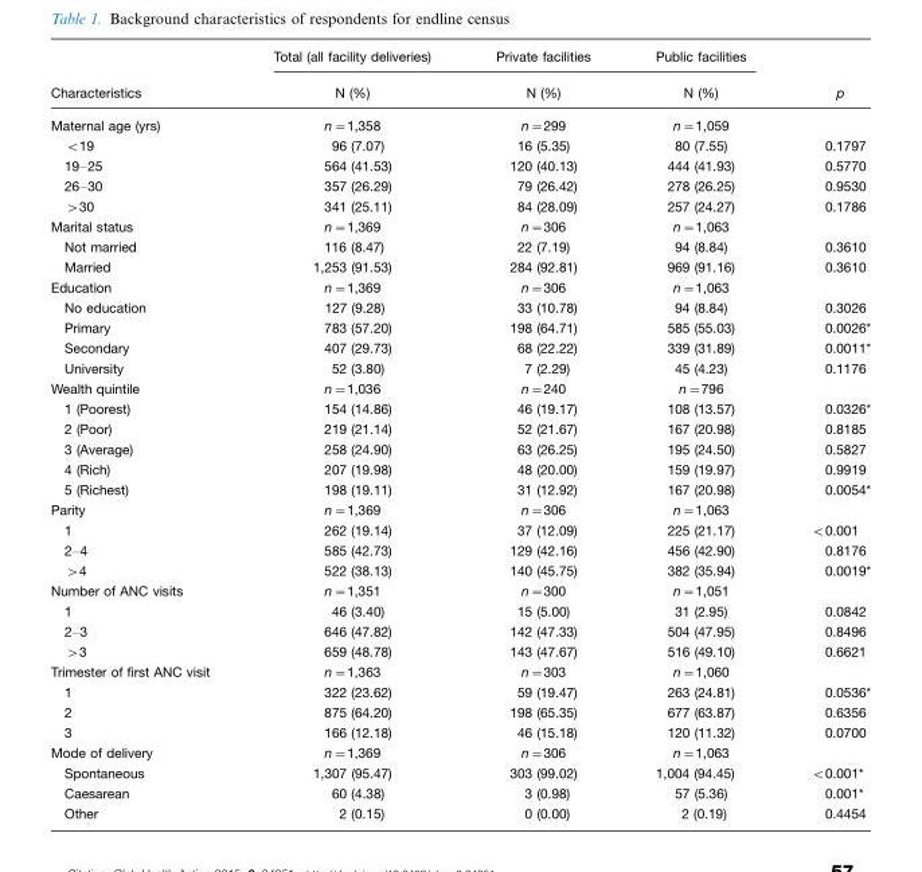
<table><thead><tr><td rowspan="2">Characteristics</td><td rowspan="2">Total (all facility deliveries) N (%)</td><td rowspan="2">Private facilities N (%)</td><td rowspan="2">Public facilities N (%)</td><td rowspan="2">p</td></tr><tr></tr></thead><tbody><tr><td>Maternal age (yrs)</td><td>n=1,358</td><td>n=299</td><td>n=1,059</td><td></td></tr><tr><td>&lt;19</td><td>96 (7.07)</td><td>16 (5.35)</td><td>80 (7.55)</td><td>0.1797</td></tr><tr><td>19–25</td><td>564 (41.53)</td><td>120 (40.13)</td><td>444 (41.93)</td><td>0.5770</td></tr><tr><td>26–30</td><td>357 (26.29)</td><td>79 (26.42)</td><td>278 (26.25)</td><td>0.9530</td></tr><tr><td>&gt;30</td><td>341 (25.11)</td><td>84 (28.09)</td><td>257 (24.27)</td><td>0.1786</td></tr><tr><td>Marital status</td><td>n=1,369</td><td>n=306</td><td>n=1,063</td><td></td></tr><tr><td>Not married</td><td>116 (8.47)</td><td>22 (7.19)</td><td>94 (8.84)</td><td>0.3610</td></tr><tr><td>Married</td><td>1,253 (91.53)</td><td>284 (92.81)</td><td>969 (91.16)</td><td>0.3610</td></tr><tr><td>Education</td><td>n=1,369</td><td>n=306</td><td>n=1,063</td><td></td></tr><tr><td>No education</td><td>127 (9.28)</td><td>33 (10.78)</td><td>94 (8.84)</td><td>0.3026</td></tr><tr><td>Primary</td><td>783 (57.20)</td><td>198 (64.71)</td><td>585 (55.03)</td><td>0.0026*</td></tr><tr><td>Secondary</td><td>407 (29.73)</td><td>68 (22.22)</td><td>339 (31.89)</td><td>0.0011*</td></tr><tr><td>University</td><td>52 (3.80)</td><td>7 (2.29)</td><td>45 (4.23)</td><td>0.1176</td></tr><tr><td>Wealth quintile</td><td>n=1,036</td><td>n=240</td><td>n=796</td><td></td></tr><tr><td>1 (Poorest)</td><td>154 (14.86)</td><td>46 (19.17)</td><td>108 (13.57)</td><td>0.0326*</td></tr><tr><td>2 (Poor)</td><td>219 (21.14)</td><td>52 (21.67)</td><td>167 (20.98)</td><td>0.8185</td></tr><tr><td>3 (Average)</td><td>258 (24.90)</td><td>63 (26.25)</td><td>195 (24.50)</td><td>0.5827</td></tr><tr><td>4 (Rich)</td><td>207 (19.98)</td><td>48 (20.00)</td><td>159 (19.97)</td><td>0.9919</td></tr><tr><td>5 (Richest)</td><td>198 (19.11)</td><td>31 (12.92)</td><td>167 (20.98)</td><td>0.0054*</td></tr><tr><td>Parity</td><td>n=1,369</td><td>n=306</td><td>n=1,063</td><td></td></tr><tr><td>1</td><td>262 (19.14)</td><td>37 (12.09)</td><td>225 (21.17)</td><td>&lt;0.001</td></tr><tr><td>2–4</td><td>585 (42.73)</td><td>129 (42.16)</td><td>456 (42.90)</td><td>0.8176</td></tr><tr><td>&gt;4</td><td>522 (38.13)</td><td>140 (45.75)</td><td>382 (35.94)</td><td>0.0019*</td></tr><tr><td>Number of ANC visits</td><td>n=1,351</td><td>n=300</td><td>n=1,051</td><td></td></tr><tr><td>1</td><td>46 (3.40)</td><td>15 (5.00)</td><td>31 (2.95)</td><td>0.0842</td></tr><tr><td>2–3</td><td>646 (47.82)</td><td>142 (47.33)</td><td>504 (47.95)</td><td>0.8496</td></tr><tr><td>&gt;3</td><td>659 (48.78)</td><td>143 (47.67)</td><td>516 (49.10)</td><td>0.6621</td></tr><tr><td>Trimester of first ANC visit</td><td>n=1,363</td><td>n=303</td><td>n=1,060</td><td></td></tr><tr><td>1</td><td>322 (23.62)</td><td>59 (19.47)</td><td>263 (24.81)</td><td>0.0536*</td></tr><tr><td>2</td><td>875 (64.20)</td><td>198 (65.35)</td><td>677 (63.87)</td><td>0.6356</td></tr><tr><td>3</td><td>166 (12.18)</td><td>46 (15.18)</td><td>120 (11.32)</td><td>0.0700</td></tr><tr><td>Mode of delivery</td><td>n=1,369</td><td>n=306</td><td>n=1,063</td><td></td></tr><tr><td>Spontaneous</td><td>1,307 (95.47)</td><td>303 (99.02)</td><td>1,004 (94.45)</td><td>&lt;0.001*</td></tr><tr><td>Caesarean</td><td>60 (4.38)</td><td>3 (0.98)</td><td>57 (5.36)</td><td>0.001*</td></tr><tr><td>Other</td><td>2 (0.15)</td><td>0 (0.00)</td><td>2 (0.19)</td><td>0.4454</td></tr></tbody></table>